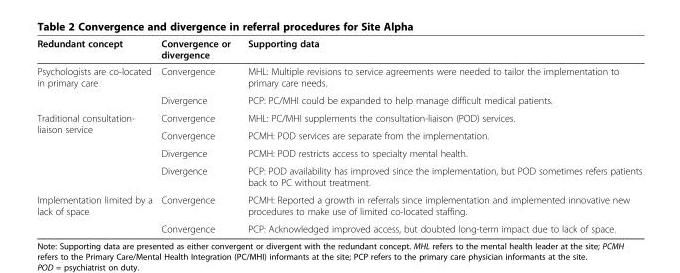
<table><thead><tr><td>Redundant concept</td><td>Convergence or divergence</td><td>Supporting data</td></tr></thead><tbody><tr><td rowspan="2">Psychologists are co-located in primary care</td><td>Convergence</td><td>MHL: Multiple revisions to service agreements were needed to tailor the implementation to primary care needs.</td></tr><tr><td>Divergence</td><td>PCP: PC/MHI could be expanded to help manage difficult medical patients.</td></tr><tr><td rowspan="4">Traditional consultation- liaison service</td><td>Convergence</td><td>MHL: PC/MHI supplements the consultation-liaison (POD) services.</td></tr><tr><td>Convergence</td><td>PCMH: POD services are separate from the implementation.</td></tr><tr><td>Divergence</td><td>PCMH: POD restricts access to specialty mental health.</td></tr><tr><td>Divergence</td><td>PCP: POD availability has improved since the implementation, but POD sometimes refers patients back to PC without treatment.</td></tr><tr><td rowspan="2">Implementation limited by a lack of space</td><td>Convergence</td><td>PCMH: Reported a growth in referrals since implementation and implemented innovative new procedures to make use of limited co-located staffing.</td></tr><tr><td>Convergence</td><td>PCP: Acknowledged improved access, but doubted long-term impact due to lack of space.</td></tr></tbody></table>